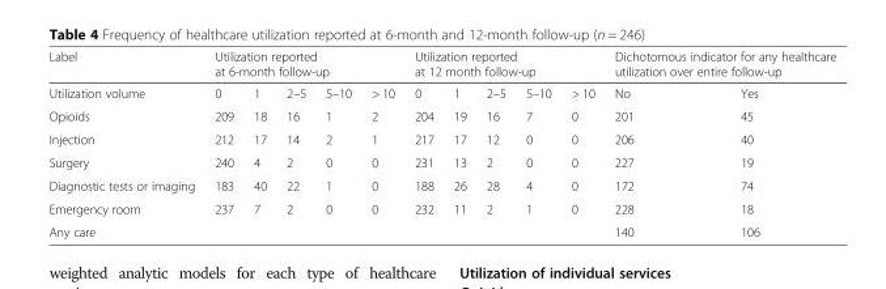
<table><thead><tr><td rowspan="2">Label Utilization volume</td><td colspan="5">Utilization reported at 6-month follow-up</td><td colspan="5">Utilization reported at 12 month follow-up</td><td colspan="2">Dichotomous indicator for any healthcare utilization over entire follow-up</td></tr><tr><td>0</td><td>1</td><td>2–5</td><td>5–10</td><td>&gt; 10</td><td>0</td><td>1</td><td>2–5</td><td>5–10</td><td>&gt; 10</td><td>No</td><td>Yes</td></tr></thead><tbody><tr><td>Opioids</td><td>209</td><td>18</td><td>16</td><td>1</td><td>2</td><td>204</td><td>19</td><td>16</td><td>7</td><td>0</td><td>201</td><td>45</td></tr><tr><td>Injection</td><td>212</td><td>17</td><td>14</td><td>2</td><td>1</td><td>217</td><td>17</td><td>12</td><td>0</td><td>0</td><td>206</td><td>40</td></tr><tr><td>Surgery</td><td>240</td><td>4</td><td>2</td><td>0</td><td>0</td><td>231</td><td>13</td><td>2</td><td>0</td><td>0</td><td>227</td><td>19</td></tr><tr><td>Diagnostic tests or imaging</td><td>183</td><td>40</td><td>22</td><td>1</td><td>0</td><td>188</td><td>26</td><td>28</td><td>4</td><td>0</td><td>172</td><td>74</td></tr><tr><td>Emergency room</td><td>237</td><td>7</td><td>2</td><td>0</td><td>0</td><td>232</td><td>11</td><td>2</td><td>1</td><td>0</td><td>228</td><td>18</td></tr><tr><td>Any care</td><td></td><td></td><td></td><td></td><td></td><td></td><td></td><td></td><td></td><td></td><td>140</td><td>106</td></tr></tbody></table>